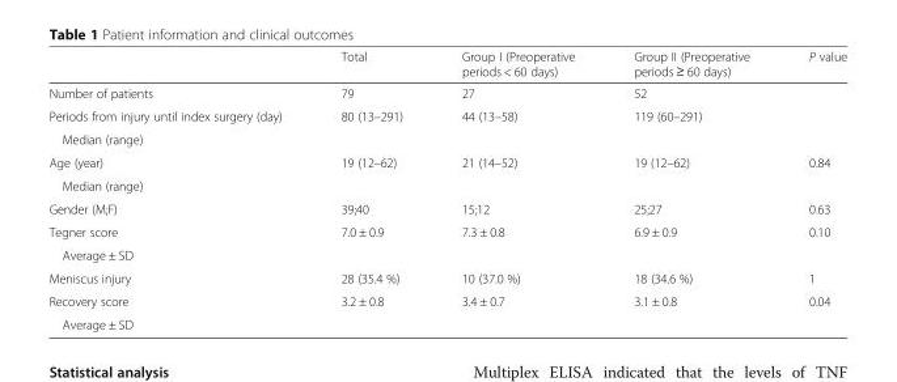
<table><thead><tr><td></td><td>Total</td><td>Group I (Preoperative periods &lt; 60 days)</td><td>Group II (Preoperative periods ≥ 60 days)</td><td>P value</td></tr></thead><tbody><tr><td>Number of patients</td><td>79</td><td>27</td><td>52</td><td></td></tr><tr><td>Periods from injury until index surgery (day)</td><td rowspan="2">80 (13–291)</td><td rowspan="2">44 (13–58)</td><td rowspan="2">119 (60–291)</td><td rowspan="2"></td></tr><tr><td>Median (range)</td></tr><tr><td>Age (year)</td><td rowspan="2">19 (12–62)</td><td rowspan="2">21 (14–52)</td><td rowspan="2">19 (12–62)</td><td rowspan="2">0.84</td></tr><tr><td>Median (range)</td></tr><tr><td>Gender (M;F)</td><td>39;40</td><td>15;12</td><td>25;27</td><td>0.63</td></tr><tr><td>Tegner score</td><td rowspan="2">7.0 ± 0.9</td><td rowspan="2">7.3 ± 0.8</td><td rowspan="2">6.9 ± 0.9</td><td rowspan="2">0.10</td></tr><tr><td>Average ± SD</td></tr><tr><td>Meniscus injury</td><td>28 (35.4 %)</td><td>10 (37.0 %)</td><td>18 (34.6 %)</td><td>1</td></tr><tr><td>Recovery score</td><td rowspan="2">3.2 ± 0.8</td><td rowspan="2">3.4 ± 0.7</td><td rowspan="2">3.1 ± 0.8</td><td rowspan="2">0.04</td></tr><tr><td>Average ± SD</td></tr></tbody></table>